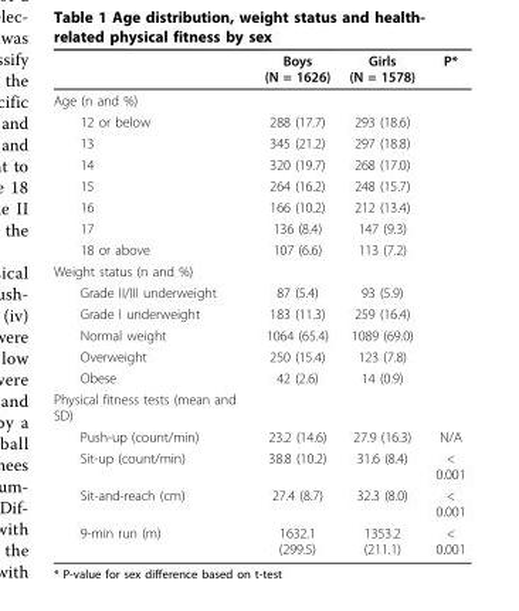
<table><thead><tr><td></td><td>Boys (N = 1626)</td><td>Girls (N = 1578)</td><td>P*</td></tr></thead><tbody><tr><td colspan="4">Age (n and %)</td></tr><tr><td>12 or below</td><td>288 (17.7)</td><td>293 (18.6)</td><td></td></tr><tr><td>13</td><td>345 (21.2)</td><td>297 (18.8)</td><td></td></tr><tr><td>14</td><td>320 (19.7)</td><td>268 (17.0)</td><td></td></tr><tr><td>15</td><td>264 (16.2)</td><td>248 (15.7)</td><td></td></tr><tr><td>16</td><td>166 (10.2)</td><td>212 (13.4)</td><td></td></tr><tr><td>17</td><td>136 (8.4)</td><td>147 (9.3)</td><td></td></tr><tr><td>18 or above</td><td>107 (6.6)</td><td>113 (7.2)</td><td></td></tr><tr><td colspan="4">Weight status (n and %)</td></tr><tr><td>Grade II/III underweight</td><td>87 (5.4)</td><td>93 (5.9)</td><td></td></tr><tr><td>Grade I underweight</td><td>183 (11.3)</td><td>259 (16.4)</td><td></td></tr><tr><td>Normal weight</td><td>1064 (65.4)</td><td>1089 (69.0)</td><td></td></tr><tr><td>Overweight</td><td>250 (15.4)</td><td>123 (7.8)</td><td></td></tr><tr><td>Obese</td><td>42 (2.6)</td><td>14 (0.9)</td><td></td></tr><tr><td colspan="4">Physical fitness tests (mean and SD)</td></tr><tr><td>Push-up (count/min)</td><td>23.2 (14.6)</td><td>27.9 (16.3)</td><td>N/A</td></tr><tr><td>Sit-up (count/min)</td><td>38.8 (10.2)</td><td>31.6 (8.4)</td><td>&lt; 0.001</td></tr><tr><td>Sit-and-reach (cm)</td><td>27.4 (8.7)</td><td>32.3 (8.0)</td><td>&lt; 0.001</td></tr><tr><td>9-min run (m)</td><td>1632.1 (299.5)</td><td>1353.2 (211.1)</td><td>&lt; 0.001</td></tr></tbody></table>